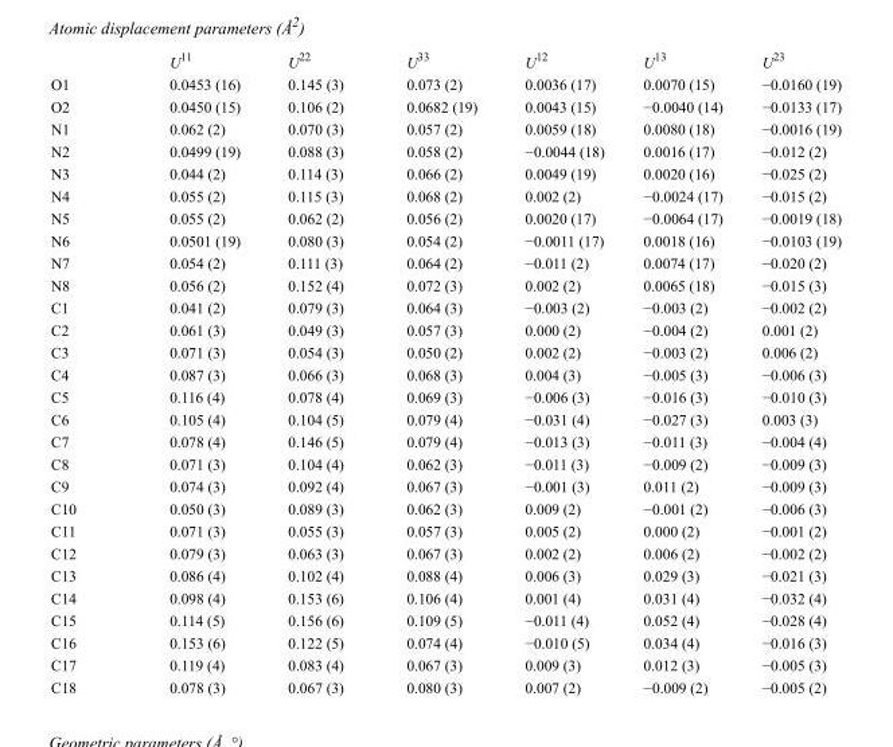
<table><thead><tr><td></td><td>U<sup>11</sup></td><td>U<sup>22</sup></td><td>U<sup>33</sup></td><td>U<sup>12</sup></td><td>U<sup>13</sup></td><td>U<sup>23</sup></td></tr></thead><tbody><tr><td>O1</td><td>0.0453 (16)</td><td>0.145 (3)</td><td>0.073 (2)</td><td>0.0036 (17)</td><td>0.0070 (15)</td><td>−0.0160 (19)</td></tr><tr><td>O2</td><td>0.0450 (15)</td><td>0.106 (2)</td><td>0.0682 (19)</td><td>0.0043 (15)</td><td>−0.0040 (14)</td><td>−0.0133 (17)</td></tr><tr><td>N1</td><td>0.062 (2)</td><td>0.070 (3)</td><td>0.057 (2)</td><td>0.0059 (18)</td><td>0.0080 (18)</td><td>−0.0016 (19)</td></tr><tr><td>N2</td><td>0.0499 (19)</td><td>0.088 (3)</td><td>0.058 (2)</td><td>−0.0044 (18)</td><td>0.0016 (17)</td><td>−0.012 (2)</td></tr><tr><td>N3</td><td>0.044 (2)</td><td>0.114 (3)</td><td>0.066 (2)</td><td>0.0049 (19)</td><td>0.0020 (16)</td><td>−0.025 (2)</td></tr><tr><td>N4</td><td>0.055 (2)</td><td>0.115 (3)</td><td>0.068 (2)</td><td>0.002 (2)</td><td>−0.0024 (17)</td><td>−0.015 (2)</td></tr><tr><td>N5</td><td>0.055 (2)</td><td>0.062 (2)</td><td>0.056 (2)</td><td>0.0020 (17)</td><td>−0.0064 (17)</td><td>−0.0019 (18)</td></tr><tr><td>N6</td><td>0.0501 (19)</td><td>0.080 (3)</td><td>0.054 (2)</td><td>−0.0011 (17)</td><td>0.0018 (16)</td><td>−0.0103 (19)</td></tr><tr><td>N7</td><td>0.054 (2)</td><td>0.111 (3)</td><td>0.064 (2)</td><td>−0.011 (2)</td><td>0.0074 (17)</td><td>−0.020 (2)</td></tr><tr><td>N8</td><td>0.056 (2)</td><td>0.152 (4)</td><td>0.072 (3)</td><td>0.002 (2)</td><td>0.0065 (18)</td><td>−0.015 (3)</td></tr><tr><td>C1</td><td>0.041 (2)</td><td>0.079 (3)</td><td>0.064 (3)</td><td>−0.003 (2)</td><td>−0.003 (2)</td><td>−0.002 (2)</td></tr><tr><td>C2</td><td>0.061 (3)</td><td>0.049 (3)</td><td>0.057 (3)</td><td>0.000 (2)</td><td>−0.004 (2)</td><td>0.001 (2)</td></tr><tr><td>C3</td><td>0.071 (3)</td><td>0.054 (3)</td><td>0.050 (2)</td><td>0.002 (2)</td><td>−0.003 (2)</td><td>0.006 (2)</td></tr><tr><td>C4</td><td>0.087 (3)</td><td>0.066 (3)</td><td>0.068 (3)</td><td>0.004 (3)</td><td>−0.005 (3)</td><td>−0.006 (3)</td></tr><tr><td>C5</td><td>0.116 (4)</td><td>0.078 (4)</td><td>0.069 (3)</td><td>−0.006 (3)</td><td>−0.016 (3)</td><td>−0.010 (3)</td></tr><tr><td>C6</td><td>0.105 (4)</td><td>0.104 (5)</td><td>0.079 (4)</td><td>−0.031 (4)</td><td>−0.027 (3)</td><td>0.003 (3)</td></tr><tr><td>C7</td><td>0.078 (4)</td><td>0.146 (5)</td><td>0.079 (4)</td><td>−0.013 (3)</td><td>−0.011 (3)</td><td>−0.004 (4)</td></tr><tr><td>C8</td><td>0.071 (3)</td><td>0.104 (4)</td><td>0.062 (3)</td><td>−0.011 (3)</td><td>−0.009 (2)</td><td>−0.009 (3)</td></tr><tr><td>C9</td><td>0.074 (3)</td><td>0.092 (4)</td><td>0.067 (3)</td><td>−0.001 (3)</td><td>0.011 (2)</td><td>−0.009 (3)</td></tr><tr><td>C10</td><td>0.050 (3)</td><td>0.089 (3)</td><td>0.062 (3)</td><td>0.009 (2)</td><td>−0.001 (2)</td><td>−0.006 (3)</td></tr><tr><td>C11</td><td>0.071 (3)</td><td>0.055 (3)</td><td>0.057 (3)</td><td>0.005 (2)</td><td>0.000 (2)</td><td>−0.001 (2)</td></tr><tr><td>C12</td><td>0.079 (3)</td><td>0.063 (3)</td><td>0.067 (3)</td><td>0.002 (2)</td><td>0.006 (2)</td><td>−0.002 (2)</td></tr><tr><td>C13</td><td>0.086 (4)</td><td>0.102 (4)</td><td>0.088 (4)</td><td>0.006 (3)</td><td>0.029 (3)</td><td>−0.021 (3)</td></tr><tr><td>C14</td><td>0.098 (4)</td><td>0.153 (6)</td><td>0.106 (4)</td><td>0.001 (4)</td><td>0.031 (4)</td><td>−0.032 (4)</td></tr><tr><td>C15</td><td>0.114 (5)</td><td>0.156 (6)</td><td>0.109 (5)</td><td>−0.011 (4)</td><td>0.052 (4)</td><td>−0.028 (4)</td></tr><tr><td>C16</td><td>0.153 (6)</td><td>0.122 (5)</td><td>0.074 (4)</td><td>−0.010 (5)</td><td>0.034 (4)</td><td>−0.016 (3)</td></tr><tr><td>C17</td><td>0.119 (4)</td><td>0.083 (4)</td><td>0.067 (3)</td><td>0.009 (3)</td><td>0.012 (3)</td><td>−0.005 (3)</td></tr><tr><td>C18</td><td>0.078 (3)</td><td>0.067 (3)</td><td>0.080 (3)</td><td>0.007 (2)</td><td>−0.009 (2)</td><td>−0.005 (2)</td></tr></tbody></table>